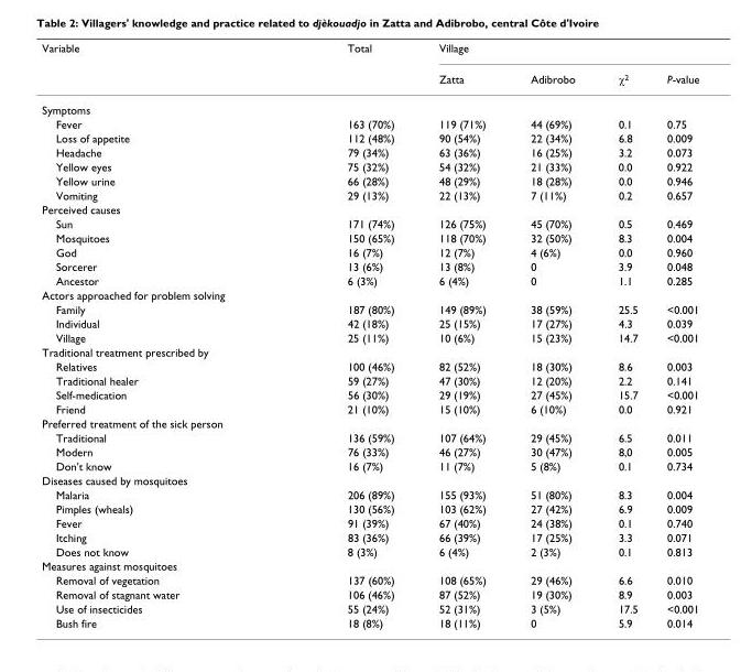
<table><thead><tr><td rowspan="2">Variable</td><td rowspan="2">Total</td><td colspan="4">Village</td></tr><tr><td>Zatta</td><td>Adibrobo</td><td>χ<sup>2</sup></td><td>P-value</td></tr></thead><tbody><tr><td colspan="6">Symptoms</td></tr><tr><td>Fever</td><td>163 (70%)</td><td>119 (71%)</td><td>44 (69%)</td><td>0.1</td><td>0.75</td></tr><tr><td>Loss of appetite</td><td>112 (48%)</td><td>90 (54%)</td><td>22 (34%)</td><td>6.8</td><td>0.009</td></tr><tr><td>Headache</td><td>79 (34%)</td><td>63 (36%)</td><td>16 (25%)</td><td>3.2</td><td>0.073</td></tr><tr><td>Yellow eyes</td><td>75 (32%)</td><td>54 (32%)</td><td>21 (33%)</td><td>0.0</td><td>0.922</td></tr><tr><td>Yellow urine</td><td>66 (28%)</td><td>48 (29%)</td><td>18 (28%)</td><td>0.0</td><td>0.946</td></tr><tr><td>Vomiting</td><td>29 (13%)</td><td>22 (13%)</td><td>7 (11%)</td><td>0.2</td><td>0.657</td></tr><tr><td colspan="6">Perceived causes</td></tr><tr><td>Sun</td><td>171 (74%)</td><td>126 (75%)</td><td>45 (70%)</td><td>0.5</td><td>0.469</td></tr><tr><td>Mosquitoes</td><td>150 (65%)</td><td>118 (70%)</td><td>32 (50%)</td><td>8.3</td><td>0.004</td></tr><tr><td>God</td><td>16 (7%)</td><td>12 (7%)</td><td>4 (6%)</td><td>0.0</td><td>0.960</td></tr><tr><td>Sorcerer</td><td>13 (6%)</td><td>13 (8%)</td><td>0</td><td>3.9</td><td>0.048</td></tr><tr><td>Ancestor</td><td>6 (3%)</td><td>6 (4%)</td><td>0</td><td>1.1</td><td>0.285</td></tr><tr><td colspan="6">Actors approached for problem solving</td></tr><tr><td>Family</td><td>187 (80%)</td><td>149 (89%)</td><td>38 (59%)</td><td>25.5</td><td>&lt;0.001</td></tr><tr><td>Individual</td><td>42 (18%)</td><td>25 (15%)</td><td>17 (27%)</td><td>4.3</td><td>0.039</td></tr><tr><td>Village</td><td>25 (11%)</td><td>10 (6%)</td><td>15 (23%)</td><td>14.7</td><td>&lt;0.001</td></tr><tr><td colspan="6">Traditional treatment prescribed by</td></tr><tr><td>Relatives</td><td>100 (46%)</td><td>82 (52%)</td><td>18 (30%)</td><td>8.6</td><td>0.003</td></tr><tr><td>Traditional healer</td><td>59 (27%)</td><td>47 (30%)</td><td>12 (20%)</td><td>2.2</td><td>0.141</td></tr><tr><td>Self-medication</td><td>56 (30%)</td><td>29 (19%)</td><td>27 (45%)</td><td>15.7</td><td>&lt;0.001</td></tr><tr><td>Friend</td><td>21 (10%)</td><td>15 (10%)</td><td>6 (10%)</td><td>0.0</td><td>0.921</td></tr><tr><td colspan="6">Preferred treatment of the sick person</td></tr><tr><td>Traditional</td><td>136 (59%)</td><td>107 (64%)</td><td>29 (45%)</td><td>6.5</td><td>0.011</td></tr><tr><td>Modern</td><td>76 (33%)</td><td>46 (27%)</td><td>30 (47%)</td><td>8,0</td><td>0.005</td></tr><tr><td>Don&#x27;t know</td><td>16 (7%)</td><td>11 (7%)</td><td>5 (8%)</td><td>0.1</td><td>0.734</td></tr><tr><td colspan="6">Diseases caused by mosquitoes</td></tr><tr><td>Malaria</td><td>206 (89%)</td><td>155 (93%)</td><td>51 (80%)</td><td>8.3</td><td>0.004</td></tr><tr><td>Pimples (wheals)</td><td>130 (56%)</td><td>103 (62%)</td><td>27 (42%)</td><td>6.9</td><td>0.009</td></tr><tr><td>Fever</td><td>91 (39%)</td><td>67 (40%)</td><td>24 (38%)</td><td>0.1</td><td>0.740</td></tr><tr><td>Itching</td><td>83 (36%)</td><td>66 (39%)</td><td>17 (25%)</td><td>3.3</td><td>0.071</td></tr><tr><td>Does not know</td><td>8 (3%)</td><td>6 (4%)</td><td>2 (3%)</td><td>0.1</td><td>0.813</td></tr><tr><td colspan="6">Measures against mosquitoes</td></tr><tr><td>Removal of vegetation</td><td>137 (60%)</td><td>108 (65%)</td><td>29 (46%)</td><td>6.6</td><td>0.010</td></tr><tr><td>Removal of stagnant water</td><td>106 (46%)</td><td>87 (52%)</td><td>19 (30%)</td><td>8.9</td><td>0.003</td></tr><tr><td>Use of insecticides</td><td>55 (24%)</td><td>52 (31%)</td><td>3 (5%)</td><td>17.5</td><td>&lt;0.001</td></tr><tr><td>Bush fire</td><td>18 (8%)</td><td>18 (11%)</td><td>0</td><td>5.9</td><td>0.014</td></tr></tbody></table>